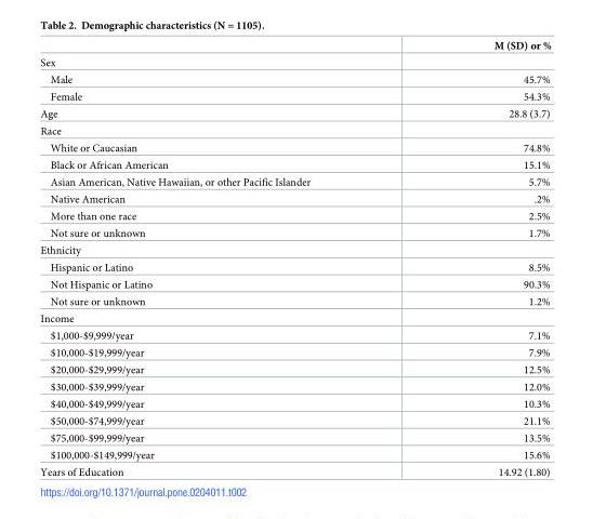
<table><thead><tr><td></td><td>M (SD) or %</td></tr></thead><tbody><tr><td colspan="2">Sex</td></tr><tr><td>Male</td><td>45.7%</td></tr><tr><td>Female</td><td>54.3%</td></tr><tr><td>Age</td><td>28.8 (3.7)</td></tr><tr><td colspan="2">Race</td></tr><tr><td>White or Caucasian</td><td>74.8%</td></tr><tr><td>Black or African American</td><td>15.1%</td></tr><tr><td>Asian American, Native Hawaiian, or other Pacific Islander</td><td>5.7%</td></tr><tr><td>Native American</td><td>.2%</td></tr><tr><td>More than one race</td><td>2.5%</td></tr><tr><td>Not sure or unknown</td><td>1.7%</td></tr><tr><td colspan="2">Ethnicity</td></tr><tr><td>Hispanic or Latino</td><td>8.5%</td></tr><tr><td>Not Hispanic or Latino</td><td>90.3%</td></tr><tr><td>Not sure or unknown</td><td>1.2%</td></tr><tr><td colspan="2">Income</td></tr><tr><td>$1,000-$9,999/year</td><td>7.1%</td></tr><tr><td>$10,000-$19,999/year</td><td>7.9%</td></tr><tr><td>$20,000-$29,999/year</td><td>12.5%</td></tr><tr><td>$30,000-$39,999/year</td><td>12.0%</td></tr><tr><td>$40,000-$49,999/year</td><td>10.3%</td></tr><tr><td>$50,000-$74,999/year</td><td>21.1%</td></tr><tr><td>$75,000-$99,999/year</td><td>13.5%</td></tr><tr><td>$100,000-$149,999/year</td><td>15.6%</td></tr><tr><td>Years of Education</td><td>14.92 (1.80)</td></tr></tbody></table>